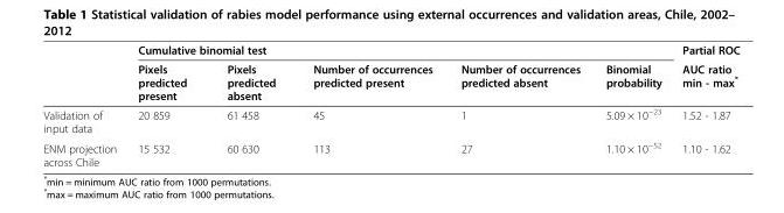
<table><thead><tr><td rowspan="2"></td><td colspan="5">Cumulative binomial test</td><td rowspan="2">Partial ROC AUC ratio min - max*</td></tr><tr><td>Pixels predicted present</td><td>Pixels predicted absent</td><td>Number of occurrences predicted present</td><td>Number of occurrences predicted absent</td><td>Binomial probability</td></tr></thead><tbody><tr><td>Validation of input data</td><td>20 859</td><td>61 458</td><td>45</td><td>1</td><td>5.09 × 10<sup>−23</sup></td><td>1.52 - 1.87</td></tr><tr><td>ENM projection across Chile</td><td>15 532</td><td>60 630</td><td>113</td><td>27</td><td>1.10 × 10<sup>−52</sup></td><td>1.10 - 1.62</td></tr></tbody></table>